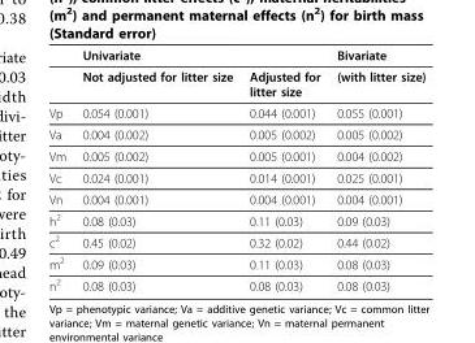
<table><thead><tr><td rowspan="2"></td><td colspan="2">Univariate</td><td rowspan="2">Bivariate (with litter size)</td></tr><tr><td>Not adjusted for litter size</td><td>Adjusted for litter size</td></tr></thead><tbody><tr><td>Vp</td><td>0.054 (0.001)</td><td>0.044 (0.001)</td><td>0.055 (0.001)</td></tr><tr><td>Va</td><td>0.004 (0.002)</td><td>0.005 (0.002)</td><td>0.005 (0.002)</td></tr><tr><td>Vm</td><td>0.005 (0.002)</td><td>0.005 (0.001)</td><td>0.004 (0.002)</td></tr><tr><td>Vc</td><td>0.024 (0.001)</td><td>0.014 (0.001)</td><td>0.025 (0.001)</td></tr><tr><td>Vn</td><td>0.004 (0.001)</td><td>0.004 (0.001)</td><td>0.004 (0.001)</td></tr><tr><td>h<sup>2</sup></td><td>0.08 (0.03)</td><td>0.11 (0.03)</td><td>0.09 (0.03)</td></tr><tr><td>c<sup>2</sup></td><td>0.45 (0.02)</td><td>0.32 (0.02)</td><td>0.44 (0.02)</td></tr><tr><td>m<sup>2</sup></td><td>0.09 (0.03)</td><td>0.11 (0.03)</td><td>0.08 (0.03)</td></tr><tr><td>n<sup>2</sup></td><td>0.08 (0.03)</td><td>0.08 (0.03)</td><td>0.08 (0.03)</td></tr></tbody></table>